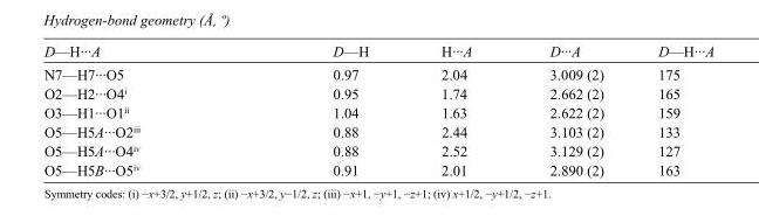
<table><tbody><tr><td>D—H···A</td><td>D—H</td><td>H···A</td><td>D···A</td><td>D—H···A</td></tr><tr><td>N7—H7···O5</td><td>0.97</td><td>2.04</td><td>3.009 (2)</td><td>175</td></tr><tr><td>O2—H2···O4<sup>i</sup></td><td>0.95</td><td>1.74</td><td>2.662 (2)</td><td>165</td></tr><tr><td>O3—H1···O1<sup>ii</sup></td><td>1.04</td><td>1.63</td><td>2.622 (2)</td><td>159</td></tr><tr><td>O5—H5A···O2<sup>iii</sup></td><td>0.88</td><td>2.44</td><td>3.103 (2)</td><td>133</td></tr><tr><td>O5—H5A···O4<sup>iv</sup></td><td>0.88</td><td>2.52</td><td>3.129 (2)</td><td>127</td></tr><tr><td>O5—H5B···O5<sup>iv</sup></td><td>0.91</td><td>2.01</td><td>2.890 (2)</td><td>163</td></tr></tbody></table>